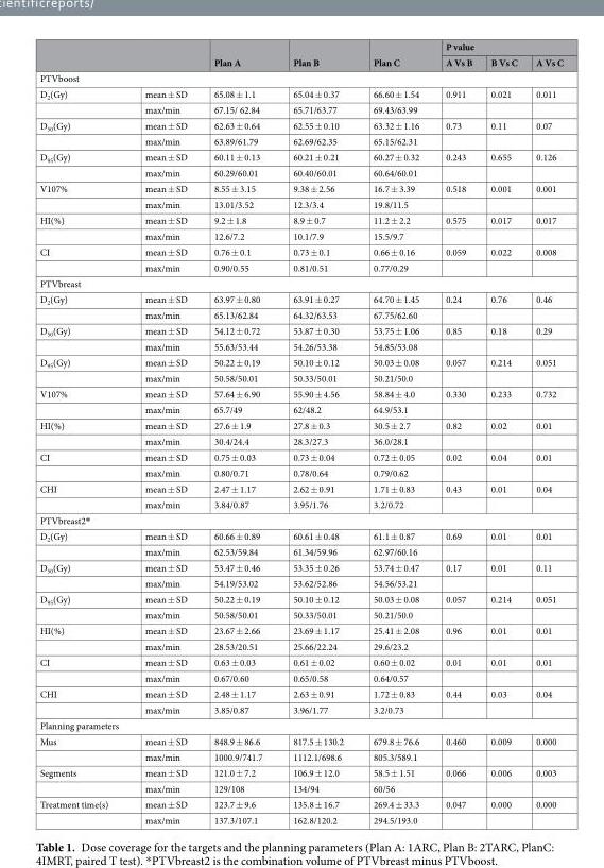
<table><thead><tr><td rowspan="2"></td><td rowspan="2"></td><td rowspan="2">Plan A</td><td rowspan="2">Plan B</td><td rowspan="2">Plan C</td><td colspan="3">P value</td></tr><tr><td>A Vs B</td><td>B Vs C</td><td>A Vs C</td></tr></thead><tbody><tr><td colspan="8">PTVboost</td></tr><tr><td rowspan="2">D<sub>2</sub>(Gy)</td><td>mean ± SD</td><td>65.08 ± 1.1</td><td>65.04 ± 0.37</td><td>66.60 ± 1.54</td><td>0.911</td><td>0.021</td><td>0.011</td></tr><tr><td>max/min</td><td>67.15/ 62.84</td><td>65.71/63.77</td><td>69.43/63.99</td><td></td><td></td><td></td></tr><tr><td rowspan="2">D<sub>50</sub>(Gy)</td><td>mean ± SD</td><td>62.63 ± 0.64</td><td>62.55 ± 0.10</td><td>63.32 ± 1.16</td><td>0.73</td><td>0.11</td><td>0.07</td></tr><tr><td>max/min</td><td>63.89/61.79</td><td>62.69/62.35</td><td>65.15/62.31</td><td></td><td></td><td></td></tr><tr><td rowspan="2">D<sub>95</sub>(Gy)</td><td>mean ± SD</td><td>60.11 ± 0.13</td><td>60.21 ± 0.21</td><td>60.27 ± 0.32</td><td>0.243</td><td>0.655</td><td>0.126</td></tr><tr><td>max/min</td><td>60.29/60.01</td><td>60.40/60.01</td><td>60.64/60.01</td><td></td><td></td><td></td></tr><tr><td rowspan="2">V107%</td><td>mean ± SD</td><td>8.55 ± 3.15</td><td>9.38 ± 2.56</td><td>16.7 ± 3.39</td><td>0.518</td><td>0.001</td><td>0.001</td></tr><tr><td>max/min</td><td>13.01/3.52</td><td>12.3/3.4</td><td>19.8/11.5</td><td></td><td></td><td></td></tr><tr><td rowspan="2">HI(%)</td><td>mean ± SD</td><td>9.2 ± 1.8</td><td>8.9 ± 0.7</td><td>11.2 ± 2.2</td><td>0.575</td><td>0.017</td><td>0.017</td></tr><tr><td>max/min</td><td>12.6/7.2</td><td>10.1/7.9</td><td>15.5/9.7</td><td></td><td></td><td></td></tr><tr><td rowspan="2">CI</td><td>mean ± SD</td><td>0.76 ± 0.1</td><td>0.73 ± 0.1</td><td>0.66 ± 0.16</td><td>0.059</td><td>0.022</td><td>0.008</td></tr><tr><td>max/min</td><td>0.90/0.55</td><td>0.81/0.51</td><td>0.77/0.29</td><td></td><td></td><td></td></tr><tr><td colspan="8">PTVbreast</td></tr><tr><td rowspan="2">D<sub>2</sub>(Gy)</td><td>mean ± SD</td><td>63.97 ± 0.80</td><td>63.91 ± 0.27</td><td>64.70 ± 1.45</td><td>0.24</td><td>0.76</td><td>0.46</td></tr><tr><td>max/min</td><td>65.13/62.84</td><td>64.32/63.53</td><td>67.75/62.60</td><td></td><td></td><td></td></tr><tr><td rowspan="2">D<sub>50</sub>(Gy)</td><td>mean ± SD</td><td>54.12 ± 0.72</td><td>53.87 ± 0.30</td><td>53.75 ± 1.06</td><td>0.85</td><td>0.18</td><td>0.29</td></tr><tr><td>max/min</td><td>55.63/53.44</td><td>54.26/53.38</td><td>54.85/53.08</td><td></td><td></td><td></td></tr><tr><td rowspan="2">D<sub>95</sub>(Gy)</td><td>mean ± SD</td><td>50.22 ± 0.19</td><td>50.10 ± 0.12</td><td>50.03 ± 0.08</td><td>0.057</td><td>0.214</td><td>0.051</td></tr><tr><td>max/min</td><td>50.58/50.01</td><td>50.33/50.01</td><td>50.21/50.0</td><td></td><td></td><td></td></tr><tr><td rowspan="2">V107%</td><td>mean ± SD</td><td>57.64 ± 6.90</td><td>55.90 ± 4.56</td><td>58.84 ± 4.0</td><td>0.330</td><td>0.233</td><td>0.732</td></tr><tr><td>max/min</td><td>65.7/49</td><td>62/48.2</td><td>64.9/53.1</td><td></td><td></td><td></td></tr><tr><td rowspan="2">HI(%)</td><td>mean ± SD</td><td>27.6 ± 1.9</td><td>27.8 ± 0.3</td><td>30.5 ± 2.7</td><td>0.82</td><td>0.02</td><td>0.01</td></tr><tr><td>max/min</td><td>30.4/24.4</td><td>28.3/27.3</td><td>36.0/28.1</td><td></td><td></td><td></td></tr><tr><td rowspan="2">CI</td><td>mean ± SD</td><td>0.75 ± 0.03</td><td>0.73 ± 0.04</td><td>0.72 ± 0.05</td><td>0.02</td><td>0.04</td><td>0.01</td></tr><tr><td>max/min</td><td>0.80/0.71</td><td>0.78/0.64</td><td>0.79/0.62</td><td></td><td></td><td></td></tr><tr><td rowspan="2">CHI</td><td>mean ± SD</td><td>2.47 ± 1.17</td><td>2.62 ± 0.91</td><td>1.71 ± 0.83</td><td>0.43</td><td>0.01</td><td>0.04</td></tr><tr><td>max/min</td><td>3.84/0.87</td><td>3.95/1.76</td><td>3.2/0.72</td><td></td><td></td><td></td></tr><tr><td colspan="8">PTVbreast2*</td></tr><tr><td rowspan="2">D<sub>2</sub>(Gy)</td><td>mean ± SD</td><td>60.66 ± 0.89</td><td>60.61 ± 0.48</td><td>61.1 ± 0.87</td><td>0.69</td><td>0.01</td><td>0.01</td></tr><tr><td>max/min</td><td>62.53/59.84</td><td>61.34/59.96</td><td>62.97/60.16</td><td></td><td></td><td></td></tr><tr><td rowspan="2">D<sub>50</sub>(Gy)</td><td>mean ± SD</td><td>53.47 ± 0.46</td><td>53.35 ± 0.26</td><td>53.74 ± 0.47</td><td>0.17</td><td>0.01</td><td>0.11</td></tr><tr><td>max/min</td><td>54.19/53.02</td><td>53.62/52.86</td><td>54.56/53.21</td><td></td><td></td><td></td></tr><tr><td rowspan="2">D<sub>95</sub>(Gy)</td><td>mean ± SD</td><td>50.22 ± 0.19</td><td>50.10 ± 0.12</td><td>50.03 ± 0.08</td><td>0.057</td><td>0.214</td><td>0.051</td></tr><tr><td>max/min</td><td>50.58/50.01</td><td>50.33/50.01</td><td>50.21/50.0</td><td></td><td></td><td></td></tr><tr><td rowspan="2">HI(%)</td><td>mean ± SD</td><td>23.67 ± 2.66</td><td>23.69 ± 1.17</td><td>25.41 ± 2.08</td><td>0.96</td><td>0.01</td><td>0.01</td></tr><tr><td>max/min</td><td>28.53/20.51</td><td>25.66/22.24</td><td>29.6/23.2</td><td></td><td></td><td></td></tr><tr><td rowspan="2">CI</td><td>mean ± SD</td><td>0.63 ± 0.03</td><td>0.61 ± 0.02</td><td>0.60 ± 0.02</td><td>0.01</td><td>0.01</td><td>0.01</td></tr><tr><td>max/min</td><td>0.67/0.60</td><td>0.65/0.58</td><td>0.64/0.57</td><td></td><td></td><td></td></tr><tr><td rowspan="2">CHI</td><td>mean ± SD</td><td>2.48 ± 1.17</td><td>2.63 ± 0.91</td><td>1.72 ± 0.83</td><td>0.44</td><td>0.03</td><td>0.04</td></tr><tr><td>max/min</td><td>3.85/0.87</td><td>3.96/1.77</td><td>3.2/0.73</td><td></td><td></td><td></td></tr><tr><td colspan="8">Planning parameters</td></tr><tr><td rowspan="2">Mus</td><td>mean ± SD</td><td>848.9 ± 86.6</td><td>817.5 ± 130.2</td><td>679.8 ± 76.6</td><td>0.460</td><td>0.009</td><td>0.000</td></tr><tr><td>max/min</td><td>1000.9/741.7</td><td>1112.1/698.6</td><td>805.3/589.1</td><td></td><td></td><td></td></tr><tr><td rowspan="2">Segments</td><td>mean ± SD</td><td>121.0 ± 7.2</td><td>106.9 ± 12.0</td><td>58.5 ± 1.51</td><td>0.066</td><td>0.006</td><td>0.003</td></tr><tr><td>max/min</td><td>129/108</td><td>134/94</td><td>60/56</td><td></td><td></td><td></td></tr><tr><td rowspan="2">Treatment time(s)</td><td>mean ± SD</td><td>123.7 ± 9.6</td><td>135.8 ± 16.7</td><td>269.4 ± 33.3</td><td>0.047</td><td>0.000</td><td>0.000</td></tr><tr><td>max/min</td><td>137.3/107.1</td><td>162.8/120.2</td><td>294.5/193.0</td><td></td><td></td><td></td></tr></tbody></table>